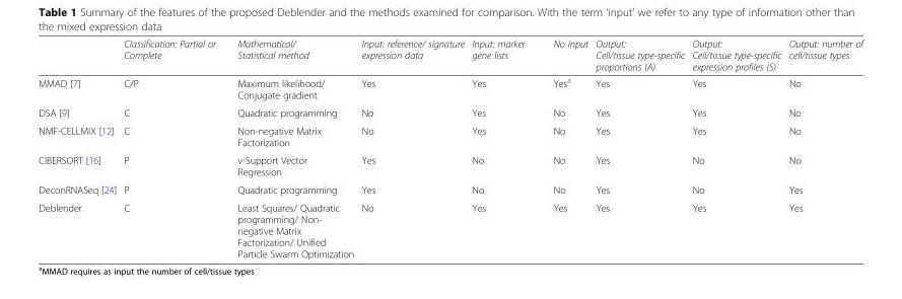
<table><thead><tr><td></td><td>Classification: Partial or Complete</td><td>Mathematical/ Statistical method</td><td>Input: reference/ signature expression data</td><td>Input: marker gene lists</td><td>No input</td><td>Output: Cell/tissue type-specific proportions (A)</td><td>Output: Cell/tissue type-specific expression profiles (S)</td><td>Output: number of cell/tissue types</td></tr></thead><tbody><tr><td>MMAD [7]</td><td>C/P</td><td>Maximum likelihood/ Conjugate gradient</td><td>Yes</td><td>Yes</td><td>Yes<sup>a</sup></td><td>Yes</td><td>Yes</td><td>No</td></tr><tr><td>DSA [9]</td><td>C</td><td>Quadratic programming</td><td>No</td><td>Yes</td><td>No</td><td>Yes</td><td>Yes</td><td>No</td></tr><tr><td>NMF-CELLMIX [12]</td><td>C</td><td>Non-negative Matrix Factorization</td><td>No</td><td>Yes</td><td>No</td><td>Yes</td><td>Yes</td><td>No</td></tr><tr><td>CIBERSORT [16]</td><td>P</td><td>v-Support Vector Regression</td><td>Yes</td><td>No</td><td>No</td><td>Yes</td><td>No</td><td>No</td></tr><tr><td>DeconRNASeq [24]</td><td>P</td><td>Quadratic programming</td><td>Yes</td><td>No</td><td>No</td><td>Yes</td><td>No</td><td>Yes</td></tr><tr><td>Deblender</td><td>C</td><td>Least Squares/ Quadratic programming/ Non- negative Matrix Factorization/ Unified Particle Swarm Optimization</td><td>No</td><td>Yes</td><td>Yes</td><td>Yes</td><td>Yes</td><td>Yes</td></tr></tbody></table>